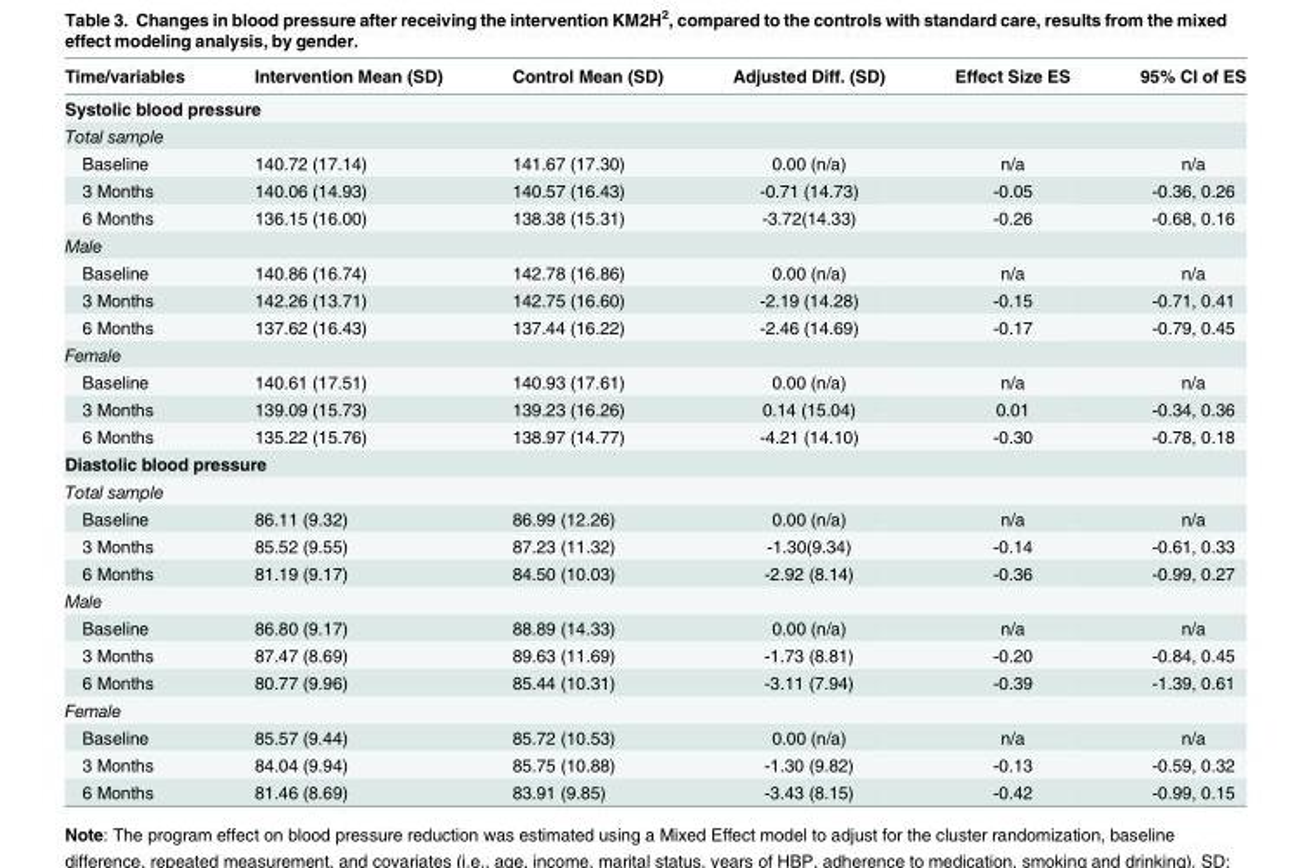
<table><thead><tr><td>Time/variables</td><td>Intervention Mean (SD)</td><td>Control Mean (SD)</td><td>Adjusted Diff. (SD)</td><td>Effect Size ES</td><td>95% CI of ES</td></tr></thead><tbody><tr><td colspan="6">Systolic blood pressure</td></tr><tr><td colspan="6">Total sample</td></tr><tr><td>Baseline</td><td>140.72 (17.14)</td><td>141.67 (17.30)</td><td>0.00 (n/a)</td><td>n/a</td><td>n/a</td></tr><tr><td>3 Months</td><td>140.06 (14.93)</td><td>140.57 (16.43)</td><td>-0.71 (14.73)</td><td>-0.05</td><td>-0.36, 0.26</td></tr><tr><td>6 Months</td><td>136.15 (16.00)</td><td>138.38 (15.31)</td><td>-3.72(14.33)</td><td>-0.26</td><td>-0.68, 0.16</td></tr><tr><td colspan="6">Male</td></tr><tr><td>Baseline</td><td>140.86 (16.74)</td><td>142.78 (16.86)</td><td>0.00 (n/a)</td><td>n/a</td><td>n/a</td></tr><tr><td>3 Months</td><td>142.26 (13.71)</td><td>142.75 (16.60)</td><td>-2.19 (14.28)</td><td>-0.15</td><td>-0.71, 0.41</td></tr><tr><td>6 Months</td><td>137.62 (16.43)</td><td>137.44 (16.22)</td><td>-2.46 (14.69)</td><td>-0.17</td><td>-0.79, 0.45</td></tr><tr><td colspan="6">Female</td></tr><tr><td>Baseline</td><td>140.61 (17.51)</td><td>140.93 (17.61)</td><td>0.00 (n/a)</td><td>n/a</td><td>n/a</td></tr><tr><td>3 Months</td><td>139.09 (15.73)</td><td>139.23 (16.26)</td><td>0.14 (15.04)</td><td>0.01</td><td>-0.34, 0.36</td></tr><tr><td>6 Months</td><td>135.22 (15.76)</td><td>138.97 (14.77)</td><td>-4.21 (14.10)</td><td>-0.30</td><td>-0.78, 0.18</td></tr><tr><td colspan="6">Diastolic blood pressure</td></tr><tr><td colspan="6">Total sample</td></tr><tr><td>Baseline</td><td>86.11 (9.32)</td><td>86.99 (12.26)</td><td>0.00 (n/a)</td><td>n/a</td><td>n/a</td></tr><tr><td>3 Months</td><td>85.52 (9.55)</td><td>87.23 (11.32)</td><td>-1.30(9.34)</td><td>-0.14</td><td>-0.61, 0.33</td></tr><tr><td>6 Months</td><td>81.19 (9.17)</td><td>84.50 (10.03)</td><td>-2.92 (8.14)</td><td>-0.36</td><td>-0.99, 0.27</td></tr><tr><td colspan="6">Male</td></tr><tr><td>Baseline</td><td>86.80 (9.17)</td><td>88.89 (14.33)</td><td>0.00 (n/a)</td><td>n/a</td><td>n/a</td></tr><tr><td>3 Months</td><td>87.47 (8.69)</td><td>89.63 (11.69)</td><td>-1.73 (8.81)</td><td>-0.20</td><td>-0.84, 0.45</td></tr><tr><td>6 Months</td><td>80.77 (9.96)</td><td>85.44 (10.31)</td><td>-3.11 (7.94)</td><td>-0.39</td><td>-1.39, 0.61</td></tr><tr><td colspan="6">Female</td></tr><tr><td>Baseline</td><td>85.57 (9.44)</td><td>85.72 (10.53)</td><td>0.00 (n/a)</td><td>n/a</td><td>n/a</td></tr><tr><td>3 Months</td><td>84.04 (9.94)</td><td>85.75 (10.88)</td><td>-1.30 (9.82)</td><td>-0.13</td><td>-0.59, 0.32</td></tr><tr><td>6 Months</td><td>81.46 (8.69)</td><td>83.91 (9.85)</td><td>-3.43 (8.15)</td><td>-0.42</td><td>-0.99, 0.15</td></tr></tbody></table>